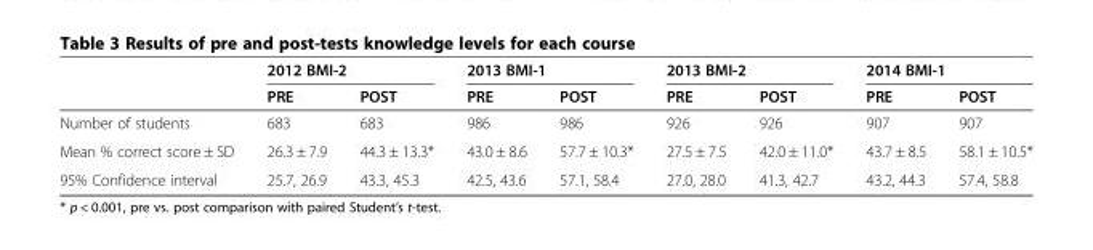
<table><thead><tr><td rowspan="2"></td><td colspan="2">2012 BMI-2</td><td colspan="2">2013 BMI-1</td><td colspan="2">2013 BMI-2</td><td colspan="2">2014 BMI-1</td></tr><tr><td>PRE</td><td>POST</td><td>PRE</td><td>POST</td><td>PRE</td><td>POST</td><td>PRE</td><td>POST</td></tr></thead><tbody><tr><td>Number of students</td><td>683</td><td>683</td><td>986</td><td>986</td><td>926</td><td>926</td><td>907</td><td>907</td></tr><tr><td>Mean % correct score ± SD</td><td>26.3 ± 7.9</td><td>44.3 ± 13.3*</td><td>43.0 ± 8.6</td><td>57.7 ± 10.3*</td><td>27.5 ± 7.5</td><td>42.0 ± 11.0*</td><td>43.7 ± 8.5</td><td>58.1 ± 10.5*</td></tr><tr><td>95% Confidence interval</td><td>25.7, 26.9</td><td>43.3, 45.3</td><td>42.5, 43.6</td><td>57.1, 58.4</td><td>27.0, 28.0</td><td>41.3, 42.7</td><td>43.2, 44.3</td><td>57.4, 58.8</td></tr></tbody></table>